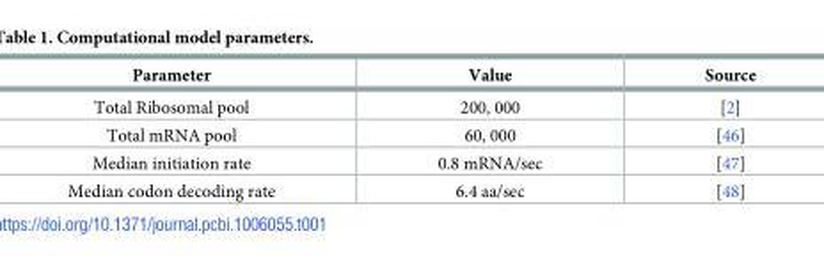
<table><thead><tr><td>Parameter</td><td>Value</td><td>Source</td></tr></thead><tbody><tr><td>Total Ribosomal pool</td><td>200, 000</td><td>[2]</td></tr><tr><td>Total mRNA pool</td><td>60, 000</td><td>[46]</td></tr><tr><td>Median initiation rate</td><td>0.8 mRNA/sec</td><td>[47]</td></tr><tr><td>Median codon decoding rate</td><td>6.4 aa/sec</td><td>[48]</td></tr></tbody></table>